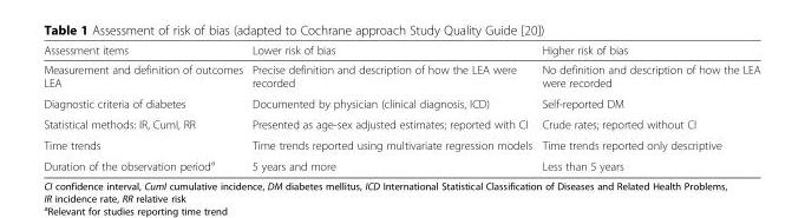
<table><thead><tr><td>Assessment items</td><td>Lower risk of bias</td><td>Higher risk of bias</td></tr></thead><tbody><tr><td>Measurement and definition of outcomes LEA</td><td>Precise definition and description of how the LEA were recorded</td><td>No definition and description of how the LEA were recorded</td></tr><tr><td>Diagnostic criteria of diabetes</td><td>Documented by physician (clinical diagnosis, ICD)</td><td>Self-reported DM</td></tr><tr><td>Statistical methods: IR, CumI, RR</td><td>Presented as age-sex adjusted estimates; reported with CI</td><td>Crude rates; reported without CI</td></tr><tr><td>Time trends</td><td>Time trends reported using multivariate regression models</td><td>Time trends reported only descriptive</td></tr><tr><td>Duration of the observation period<sup>a</sup></td><td>5 years and more</td><td>Less than 5 years</td></tr></tbody></table>